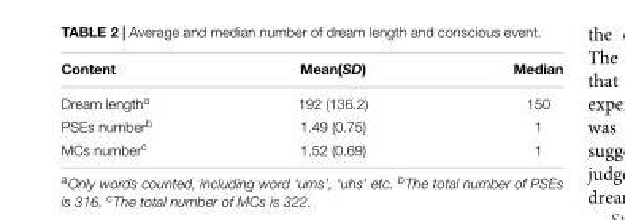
<table><thead><tr><td>Content</td><td>Mean(SD)</td><td>Median</td></tr></thead><tbody><tr><td>Dream length<sup>a</sup></td><td>192 (136.2)</td><td>150</td></tr><tr><td>PSEs number<sup>b</sup></td><td>1.49 (0.75)</td><td>1</td></tr><tr><td>MCs number<sup>c</sup></td><td>1.52 (0.69)</td><td>1</td></tr></tbody></table>